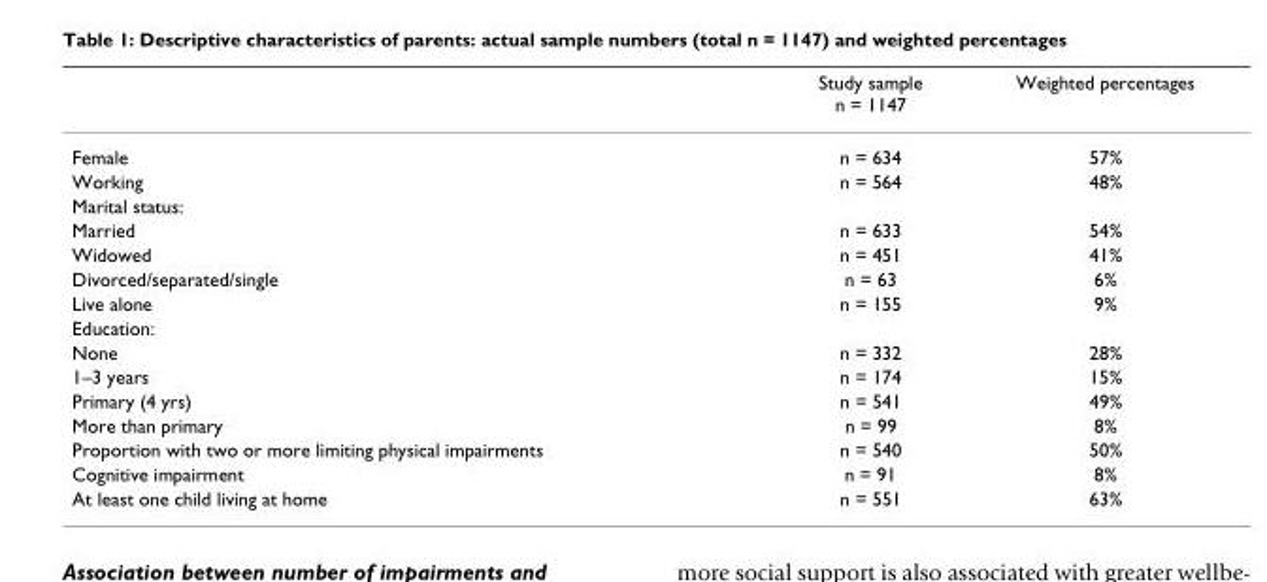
<table><thead><tr><td></td><td>Study sample n = 1147</td><td>Weighted percentages</td></tr></thead><tbody><tr><td>Female</td><td>n = 634</td><td>57%</td></tr><tr><td>Working</td><td>n = 564</td><td>48%</td></tr><tr><td colspan="3">Marital status:</td></tr><tr><td>Married</td><td>n = 633</td><td>54%</td></tr><tr><td>Widowed</td><td>n = 451</td><td>41%</td></tr><tr><td>Divorced/separated/single</td><td>n = 63</td><td>6%</td></tr><tr><td>Live alone</td><td>n = 155</td><td>9%</td></tr><tr><td colspan="3">Education:</td></tr><tr><td>None</td><td>n = 332</td><td>28%</td></tr><tr><td>1–3 years</td><td>n = 174</td><td>15%</td></tr><tr><td>Primary (4 yrs)</td><td>n = 541</td><td>49%</td></tr><tr><td>More than primary</td><td>n = 99</td><td>8%</td></tr><tr><td>Proportion with two or more limiting physical impairments</td><td>n = 540</td><td>50%</td></tr><tr><td>Cognitive impairment</td><td>n = 91</td><td>8%</td></tr><tr><td>At least one child living at home</td><td>n = 551</td><td>63%</td></tr></tbody></table>